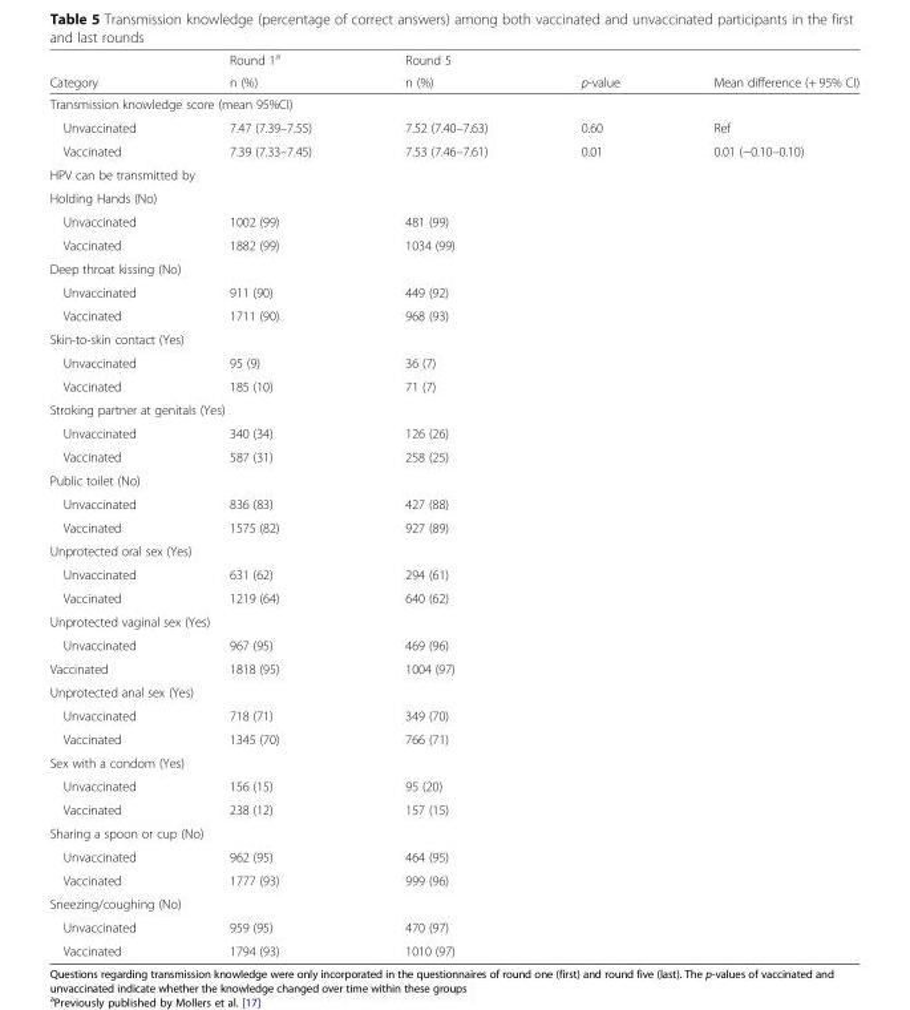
<table><thead><tr><td rowspan="2">Category</td><td rowspan="2">Round 1<sup>a</sup> n (%)</td><td rowspan="2">Round 5 n (%)</td><td rowspan="2">p-value</td><td rowspan="2">Mean difference (+ 95% CI)</td></tr><tr></tr></thead><tbody><tr><td colspan="5">Transmission knowledge score (mean 95%CI)</td></tr><tr><td>Unvaccinated</td><td>7.47 (7.39–7.55)</td><td>7.52 (7.40–7.63)</td><td>0.60</td><td>Ref</td></tr><tr><td>Vaccinated</td><td>7.39 (7.33–7.45)</td><td>7.53 (7.46–7.61)</td><td>0.01</td><td>0.01 (−0.10–0.10)</td></tr><tr><td colspan="5">HPV can be transmitted by</td></tr><tr><td colspan="5">Holding Hands (No)</td></tr><tr><td>Unvaccinated</td><td>1002 (99)</td><td>481 (99)</td><td></td><td></td></tr><tr><td>Vaccinated</td><td>1882 (99)</td><td>1034 (99)</td><td></td><td></td></tr><tr><td colspan="5">Deep throat kissing (No)</td></tr><tr><td>Unvaccinated</td><td>911 (90)</td><td>449 (92)</td><td></td><td></td></tr><tr><td>Vaccinated</td><td>1711 (90)</td><td>968 (93)</td><td></td><td></td></tr><tr><td colspan="5">Skin-to-skin contact (Yes)</td></tr><tr><td>Unvaccinated</td><td>95 (9)</td><td>36 (7)</td><td></td><td></td></tr><tr><td>Vaccinated</td><td>185 (10)</td><td>71 (7)</td><td></td><td></td></tr><tr><td colspan="5">Stroking partner at genitals (Yes)</td></tr><tr><td>Unvaccinated</td><td>340 (34)</td><td>126 (26)</td><td></td><td></td></tr><tr><td>Vaccinated</td><td>587 (31)</td><td>258 (25)</td><td></td><td></td></tr><tr><td colspan="5">Public toilet (No)</td></tr><tr><td>Unvaccinated</td><td>836 (83)</td><td>427 (88)</td><td></td><td></td></tr><tr><td>Vaccinated</td><td>1575 (82)</td><td>927 (89)</td><td></td><td></td></tr><tr><td colspan="5">Unprotected oral sex (Yes)</td></tr><tr><td>Unvaccinated</td><td>631 (62)</td><td>294 (61)</td><td></td><td></td></tr><tr><td>Vaccinated</td><td>1219 (64)</td><td>640 (62)</td><td></td><td></td></tr><tr><td colspan="5">Unprotected vaginal sex (Yes)</td></tr><tr><td>Unvaccinated</td><td>967 (95)</td><td>469 (96)</td><td></td><td></td></tr><tr><td>Vaccinated</td><td>1818 (95)</td><td>1004 (97)</td><td></td><td></td></tr><tr><td colspan="5">Unprotected anal sex (Yes)</td></tr><tr><td>Unvaccinated</td><td>718 (71)</td><td>349 (70)</td><td></td><td></td></tr><tr><td>Vaccinated</td><td>1345 (70)</td><td>766 (71)</td><td></td><td></td></tr><tr><td colspan="5">Sex with a condom (Yes)</td></tr><tr><td>Unvaccinated</td><td>156 (15)</td><td>95 (20)</td><td></td><td></td></tr><tr><td>Vaccinated</td><td>238 (12)</td><td>157 (15)</td><td></td><td></td></tr><tr><td colspan="5">Sharing a spoon or cup (No)</td></tr><tr><td>Unvaccinated</td><td>962 (95)</td><td>464 (95)</td><td></td><td></td></tr><tr><td>Vaccinated</td><td>1777 (93)</td><td>999 (96)</td><td></td><td></td></tr><tr><td colspan="5">Sneezing/coughing (No)</td></tr><tr><td>Unvaccinated</td><td>959 (95)</td><td>470 (97)</td><td></td><td></td></tr><tr><td>Vaccinated</td><td>1794 (93)</td><td>1010 (97)</td><td></td><td></td></tr></tbody></table>